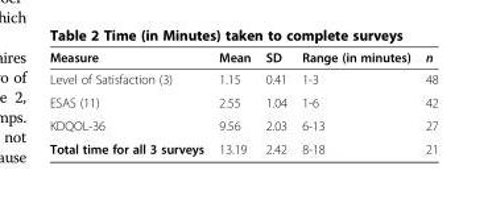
<table><thead><tr><td>Measure</td><td>Mean</td><td>SD</td><td>Range (in minutes)</td><td>n</td></tr></thead><tbody><tr><td>Level of Satisfaction (3)</td><td>1.15</td><td>0.41</td><td>1-3</td><td>48</td></tr><tr><td>ESAS (11)</td><td>2.55</td><td>1.04</td><td>1-6</td><td>42</td></tr><tr><td>KDQOL-36</td><td>9.56</td><td>2.03</td><td>6-13</td><td>27</td></tr><tr><td>Total time for all 3 surveys</td><td>13.19</td><td>2.42</td><td>8-18</td><td>21</td></tr></tbody></table>